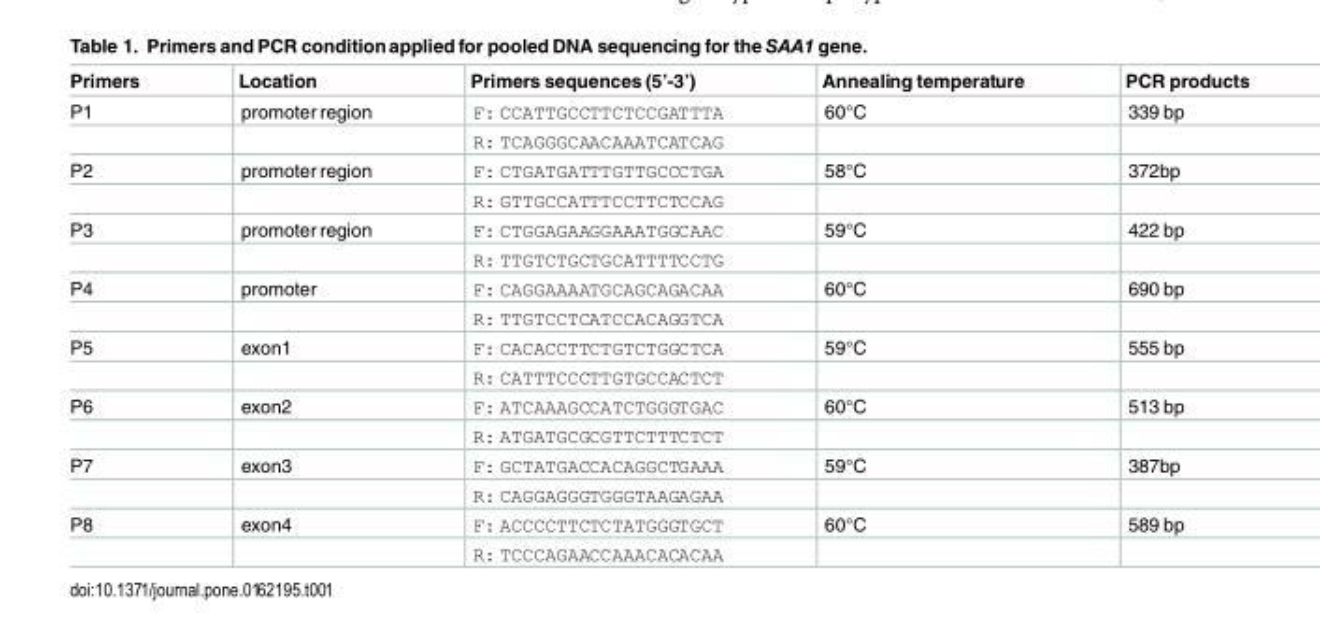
<table><thead><tr><td>Primers</td><td>Location</td><td>Primers sequences (5’-3’)</td><td>Annealing temperature</td><td>PCR products</td></tr></thead><tbody><tr><td rowspan="2">P1</td><td>promoter region</td><td>F: CCATTGCCTTCTCCGATTTA</td><td>60°C</td><td>339 bp</td></tr><tr><td></td><td>R: TCAGGGCAACAAATCATCAG</td><td></td><td></td></tr><tr><td rowspan="2">P2</td><td>promoter region</td><td>F: CTGATGATTTGTTGCCCTGA</td><td>58°C</td><td>372bp</td></tr><tr><td></td><td>R: GTTGCCATTTCCTTCTCCAG</td><td></td><td></td></tr><tr><td rowspan="2">P3</td><td>promoter region</td><td>F: CTGGAGAAGGAAATGGCAAC</td><td>59°C</td><td>422 bp</td></tr><tr><td></td><td>R: TTGTCTGCTGCATTTTCCTG</td><td></td><td></td></tr><tr><td rowspan="2">P4</td><td>promoter</td><td>F: CAGGAAAATGCAGCAGACAA</td><td>60°C</td><td>690 bp</td></tr><tr><td></td><td>R: TTGTCCTCATCCACAGGTCA</td><td></td><td></td></tr><tr><td rowspan="2">P5</td><td>exon1</td><td>F: CACACCTTCTGTCTGGCTCA</td><td>59°C</td><td>555 bp</td></tr><tr><td></td><td>R: CATTTCCCTTGTGCCACTCT</td><td></td><td></td></tr><tr><td rowspan="2">P6</td><td>exon2</td><td>F: ATCAAAGCCATCTGGGTGAC</td><td>60°C</td><td>513 bp</td></tr><tr><td></td><td>R: ATGATGCGCGTTCTTTCTCT</td><td></td><td></td></tr><tr><td rowspan="2">P7</td><td>exon3</td><td>F: GCTATGACCACAGGCTGAAA</td><td>59°C</td><td>387bp</td></tr><tr><td></td><td>R: CAGGAGGGTGGGTAAGAGAA</td><td></td><td></td></tr><tr><td rowspan="2">P8</td><td>exon4</td><td>F: ACCCCTTCTCTATGGGTGCT</td><td>60°C</td><td>589 bp</td></tr><tr><td></td><td>R: TCCCAGAACCAAACACACAA</td><td></td><td></td></tr></tbody></table>